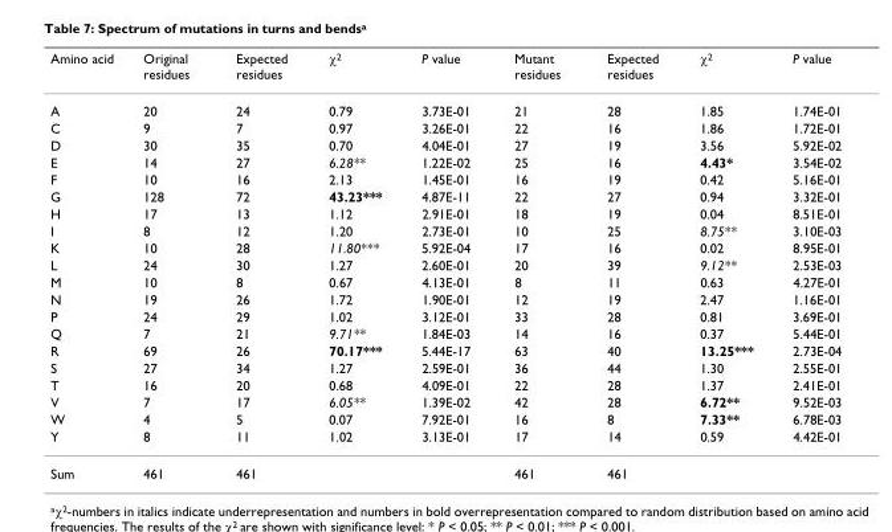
<table><thead><tr><td>Amino acid</td><td>Original residues</td><td>Expected residues</td><td>χ<sup>2</sup></td><td>P value</td><td>Mutant residues</td><td>Expected residues</td><td>χ<sup>2</sup></td><td>P value</td></tr></thead><tbody><tr><td>A</td><td>20</td><td>24</td><td>0.79</td><td>3.73E-01</td><td>21</td><td>28</td><td>1.85</td><td>1.74E-01</td></tr><tr><td>C</td><td>9</td><td>7</td><td>0.97</td><td>3.26E-01</td><td>22</td><td>16</td><td>1.86</td><td>1.72E-01</td></tr><tr><td>D</td><td>30</td><td>35</td><td>0.70</td><td>4.04E-01</td><td>27</td><td>19</td><td>3.56</td><td>5.92E-02</td></tr><tr><td>E</td><td>14</td><td>27</td><td>6.28**</td><td>1.22E-02</td><td>25</td><td>16</td><td>4.43*</td><td>3.54E-02</td></tr><tr><td>F</td><td>10</td><td>16</td><td>2.13</td><td>1.45E-01</td><td>16</td><td>19</td><td>0.42</td><td>5.16E-01</td></tr><tr><td>G</td><td>128</td><td>72</td><td>43.23***</td><td>4.87E-11</td><td>22</td><td>27</td><td>0.94</td><td>3.32E-01</td></tr><tr><td>H</td><td>17</td><td>13</td><td>1.12</td><td>2.91E-01</td><td>18</td><td>19</td><td>0.04</td><td>8.51E-01</td></tr><tr><td>I</td><td>8</td><td>12</td><td>1.20</td><td>2.73E-01</td><td>10</td><td>25</td><td>8.75**</td><td>3.10E-03</td></tr><tr><td>K</td><td>10</td><td>28</td><td>11.80***</td><td>5.92E-04</td><td>17</td><td>16</td><td>0.02</td><td>8.95E-01</td></tr><tr><td>L</td><td>24</td><td>30</td><td>1.27</td><td>2.60E-01</td><td>20</td><td>39</td><td>9.12**</td><td>2.53E-03</td></tr><tr><td>M</td><td>10</td><td>8</td><td>0.67</td><td>4.13E-01</td><td>8</td><td>11</td><td>0.63</td><td>4.27E-01</td></tr><tr><td>N</td><td>19</td><td>26</td><td>1.72</td><td>1.90E-01</td><td>12</td><td>19</td><td>2.47</td><td>1.16E-01</td></tr><tr><td>P</td><td>24</td><td>29</td><td>1.02</td><td>3.12E-01</td><td>33</td><td>28</td><td>0.81</td><td>3.69E-01</td></tr><tr><td>Q</td><td>7</td><td>21</td><td>9.71**</td><td>1.84E-03</td><td>14</td><td>16</td><td>0.37</td><td>5.44E-01</td></tr><tr><td>R</td><td>69</td><td>26</td><td>70.17***</td><td>5.44E-17</td><td>63</td><td>40</td><td>13.25***</td><td>2.73E-04</td></tr><tr><td>S</td><td>27</td><td>34</td><td>1.27</td><td>2.59E-01</td><td>36</td><td>44</td><td>1.30</td><td>2.55E-01</td></tr><tr><td>T</td><td>16</td><td>20</td><td>0.68</td><td>4.09E-01</td><td>22</td><td>28</td><td>1.37</td><td>2.41E-01</td></tr><tr><td>V</td><td>7</td><td>17</td><td>6.05**</td><td>1.39E-02</td><td>42</td><td>28</td><td>6.72**</td><td>9.52E-03</td></tr><tr><td>W</td><td>4</td><td>5</td><td>0.07</td><td>7.92E-01</td><td>16</td><td>8</td><td>7.33**</td><td>6.78E-03</td></tr><tr><td>Y</td><td>8</td><td>11</td><td>1.02</td><td>3.13E-01</td><td>17</td><td>14</td><td>0.59</td><td>4.42E-01</td></tr><tr><td>Sum</td><td>461</td><td>461</td><td></td><td></td><td>461</td><td>461</td><td></td><td></td></tr></tbody></table>